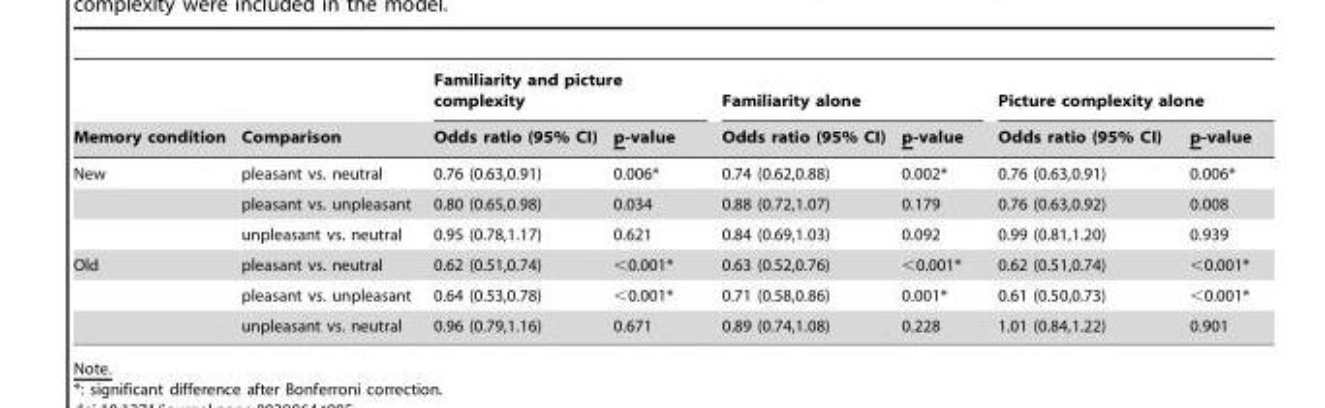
<table><thead><tr><td rowspan="2">Memory condition</td><td rowspan="2">Comparison</td><td colspan="2">Familiarity and picture complexity</td><td colspan="2">Familiarity alone</td><td colspan="2">Picture complexity alone</td></tr><tr><td>Odds ratio (95% CI)</td><td>p-value</td><td>Odds ratio (95% CI)</td><td>p-value</td><td>Odds ratio (95% CI)</td><td>p-value</td></tr></thead><tbody><tr><td rowspan="3">New</td><td>pleasant vs. neutral</td><td>0.76 (0.63,0.91)</td><td>0.006*</td><td>0.74 (0.62,0.88)</td><td>0.002*</td><td>0.76 (0.63,0.91)</td><td>0.006*</td></tr><tr><td>pleasant vs. unpleasant</td><td>0.80 (0.65,0.98)</td><td>0.034</td><td>0.88 (0.72,1.07)</td><td>0.179</td><td>0.76 (0.63,0.92)</td><td>0.008</td></tr><tr><td>unpleasant vs. neutral</td><td>0.95 (0.78,1.17)</td><td>0.621</td><td>0.84 (0.69,1.03)</td><td>0.092</td><td>0.99 (0.81,1.20)</td><td>0.939</td></tr><tr><td rowspan="3">Old</td><td>pleasant vs. neutral</td><td>0.62 (0.51,0.74)</td><td>&lt;0.001*</td><td>0.63 (0.52,0.76)</td><td>&lt;0.001*</td><td>0.62 (0.51,0.74)</td><td>&lt;0.001*</td></tr><tr><td>pleasant vs. unpleasant</td><td>0.64 (0.53,0.78)</td><td>&lt;0.001*</td><td>0.71 (0.58,0.86)</td><td>0.001*</td><td>0.61 (0.50,0.73)</td><td>&lt;0.001*</td></tr><tr><td>unpleasant vs. neutral</td><td>0.96 (0.79,1.16)</td><td>0.671</td><td>0.89 (0.74,1.08)</td><td>0.228</td><td>1.01 (0.84,1.22)</td><td>0.901</td></tr></tbody></table>